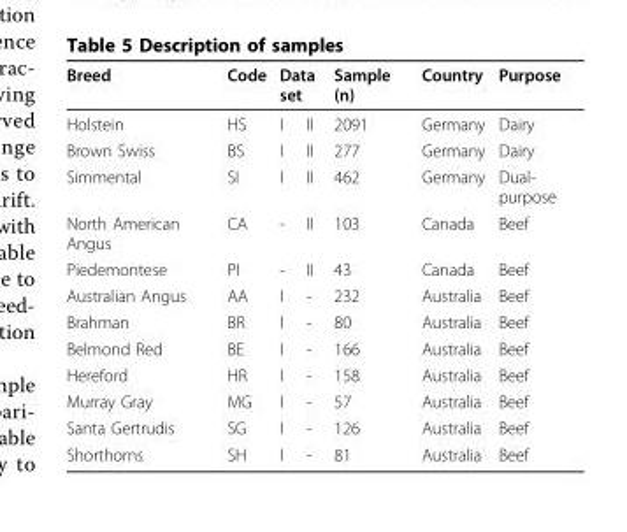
<table><thead><tr><td rowspan="2">Breed Holstein</td><td rowspan="2">Code HS</td><td colspan="2">Data set</td><td rowspan="2">Sample (n) 2091</td><td rowspan="2">Country Germany</td><td rowspan="2">Purpose Dairy</td></tr><tr><td>I</td><td>II</td></tr></thead><tbody><tr><td>Brown Swiss</td><td>BS</td><td>I</td><td>II</td><td>277</td><td>Germany</td><td>Dairy</td></tr><tr><td>Simmental</td><td>SI</td><td>I</td><td>II</td><td>462</td><td>Germany</td><td>Dual- purpose</td></tr><tr><td>North American Angus</td><td>CA</td><td>-</td><td>II</td><td>103</td><td>Canada</td><td>Beef</td></tr><tr><td>Piedemontese</td><td>PI</td><td>-</td><td>II</td><td>43</td><td>Canada</td><td>Beef</td></tr><tr><td>Australian Angus</td><td>AA</td><td>I</td><td>-</td><td>232</td><td>Australia</td><td>Beef</td></tr><tr><td>Brahman</td><td>BR</td><td>I</td><td>-</td><td>80</td><td>Australia</td><td>Beef</td></tr><tr><td>Belmond Red</td><td>BE</td><td>I</td><td>-</td><td>166</td><td>Australia</td><td>Beef</td></tr><tr><td>Hereford</td><td>HR</td><td>I</td><td>-</td><td>158</td><td>Australia</td><td>Beef</td></tr><tr><td>Murray Gray</td><td>MG</td><td>I</td><td>-</td><td>57</td><td>Australia</td><td>Beef</td></tr><tr><td>Santa Gertrudis</td><td>SG</td><td>I</td><td>-</td><td>126</td><td>Australia</td><td>Beef</td></tr><tr><td>Shorthorns</td><td>SH</td><td>I</td><td>-</td><td>81</td><td>Australia</td><td>Beef</td></tr></tbody></table>